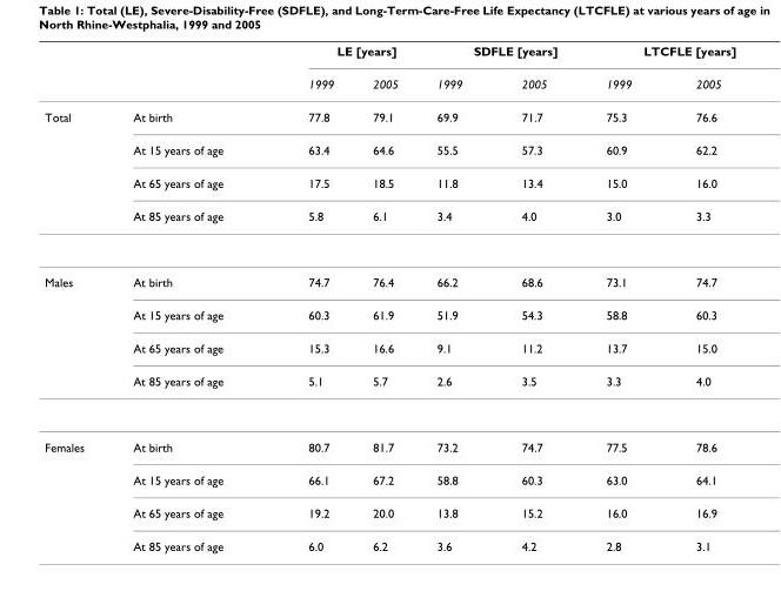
<table><thead><tr><td rowspan="2"></td><td rowspan="2"></td><td colspan="2">LE [years]</td><td colspan="2">SDFLE [years]</td><td colspan="2">LTCFLE [years]</td></tr><tr><td>1999</td><td>2005</td><td>1999</td><td>2005</td><td>1999</td><td>2005</td></tr></thead><tbody><tr><td rowspan="4">Total</td><td>At birth</td><td>77.8</td><td>79.1</td><td>69.9</td><td>71.7</td><td>75.3</td><td>76.6</td></tr><tr><td>At 15 years of age</td><td>63.4</td><td>64.6</td><td>55.5</td><td>57.3</td><td>60.9</td><td>62.2</td></tr><tr><td>At 65 years of age</td><td>17.5</td><td>18.5</td><td>11.8</td><td>13.4</td><td>15.0</td><td>16.0</td></tr><tr><td>At 85 years of age</td><td>5.8</td><td>6.1</td><td>3.4</td><td>4.0</td><td>3.0</td><td>3.3</td></tr><tr><td rowspan="4">Males</td><td>At birth</td><td>74.7</td><td>76.4</td><td>66.2</td><td>68.6</td><td>73.1</td><td>74.7</td></tr><tr><td>At 15 years of age</td><td>60.3</td><td>61.9</td><td>51.9</td><td>54.3</td><td>58.8</td><td>60.3</td></tr><tr><td>At 65 years of age</td><td>15.3</td><td>16.6</td><td>9.1</td><td>11.2</td><td>13.7</td><td>15.0</td></tr><tr><td>At 85 years of age</td><td>5.1</td><td>5.7</td><td>2.6</td><td>3.5</td><td>3.3</td><td>4.0</td></tr><tr><td rowspan="4">Females</td><td>At birth</td><td>80.7</td><td>81.7</td><td>73.2</td><td>74.7</td><td>77.5</td><td>78.6</td></tr><tr><td>At 15 years of age</td><td>66.1</td><td>67.2</td><td>58.8</td><td>60.3</td><td>63.0</td><td>64.1</td></tr><tr><td>At 65 years of age</td><td>19.2</td><td>20.0</td><td>13.8</td><td>15.2</td><td>16.0</td><td>16.9</td></tr><tr><td>At 85 years of age</td><td>6.0</td><td>6.2</td><td>3.6</td><td>4.2</td><td>2.8</td><td>3.1</td></tr></tbody></table>